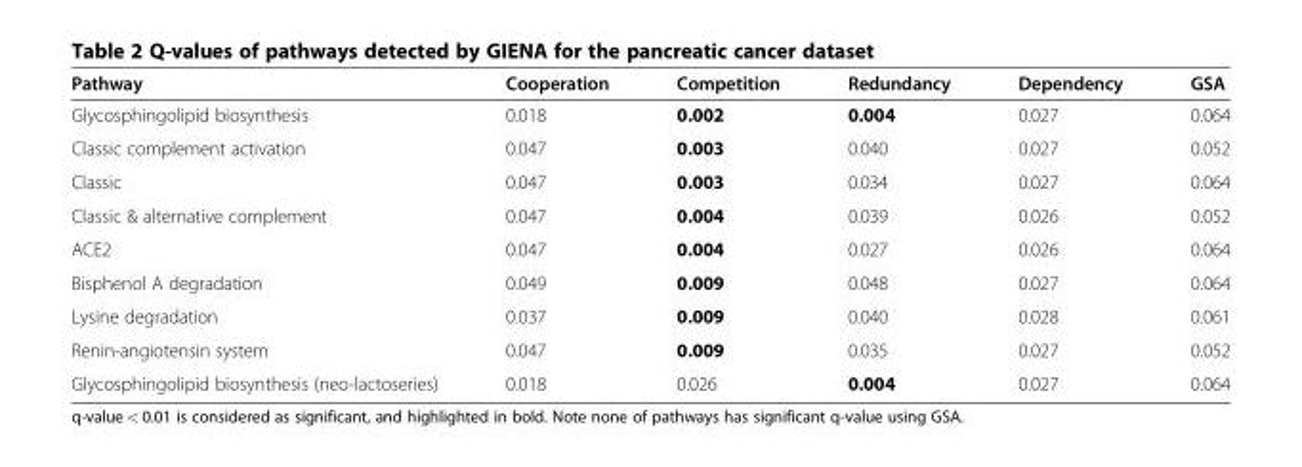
<table><thead><tr><td>Pathway</td><td>Cooperation</td><td>Competition</td><td>Redundancy</td><td>Dependency</td><td>GSA</td></tr></thead><tbody><tr><td>Glycosphingolipid biosynthesis</td><td>0.018</td><td>0.002</td><td>0.004</td><td>0.027</td><td>0.064</td></tr><tr><td>Classic complement activation</td><td>0.047</td><td>0.003</td><td>0.040</td><td>0.027</td><td>0.052</td></tr><tr><td>Classic</td><td>0.047</td><td>0.003</td><td>0.034</td><td>0.027</td><td>0.064</td></tr><tr><td>Classic &amp; alternative complement</td><td>0.047</td><td>0.004</td><td>0.039</td><td>0.026</td><td>0.052</td></tr><tr><td>ACE2</td><td>0.047</td><td>0.004</td><td>0.027</td><td>0.026</td><td>0.064</td></tr><tr><td>Bisphenol A degradation</td><td>0.049</td><td>0.009</td><td>0.048</td><td>0.027</td><td>0.064</td></tr><tr><td>Lysine degradation</td><td>0.037</td><td>0.009</td><td>0.040</td><td>0.028</td><td>0.061</td></tr><tr><td>Renin-angiotensin system</td><td>0.047</td><td>0.009</td><td>0.035</td><td>0.027</td><td>0.052</td></tr><tr><td>Glycosphingolipid biosynthesis (neo-lactoseries)</td><td>0.018</td><td>0.026</td><td>0.004</td><td>0.027</td><td>0.064</td></tr></tbody></table>